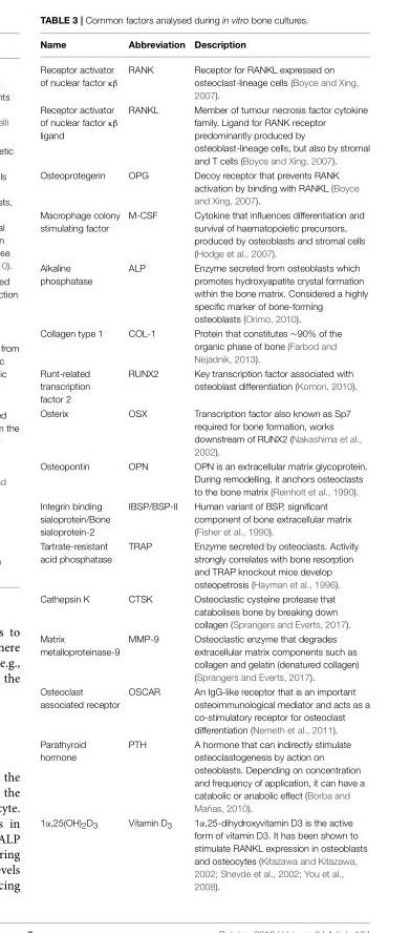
<table><thead><tr><td>Name</td><td>Abbreviation</td><td>Description</td></tr></thead><tbody><tr><td>Receptor activator of nuclear factor κβ</td><td>RANK</td><td>Receptor for RANKL expressed on osteoclast-lineage cells (Boyce and Xing, 2007).</td></tr><tr><td>Receptor activator of nuclear factor κβ ligand</td><td>RANKL</td><td>Member of tumour necrosis factor cytokine family. Ligand for RANK receptor predominantly produced by osteoblast-lineage cells, but also by stromal and T cells (Boyce and Xing, 2007).</td></tr><tr><td>Osteoprotegerin</td><td>OPG</td><td>Decoy receptor that prevents RANK activation by binding with RANKL (Boyce and Xing, 2007).</td></tr><tr><td>Macrophage colony stimulating factor</td><td>M-CSF</td><td>Cytokine that influences differentiation and survival of haematopoietic precursors, produced by osteoblasts and stromal cells (Hodge et al., 2007).</td></tr><tr><td>Alkaline phosphatase</td><td>ALP</td><td>Enzyme secreted from osteoblasts which promotes hydroxyapatite crystal formation within the bone matrix. Considered a highly specific marker of bone-forming osteoblasts (Orimo, 2010).</td></tr><tr><td>Collagen type 1</td><td>COL-1</td><td>Protein that constitutes ∼90% of the organic phase of bone (Farbod and Nejadnik, 2013).</td></tr><tr><td>Runt-related transcription factor 2</td><td>RUNX2</td><td>Key transcription factor associated with osteoblast differentiation (Komori, 2010).</td></tr><tr><td>Osterix</td><td>OSX</td><td>Transcription factor also known as Sp7 required for bone formation, works downstream of RUNX2 (Nakashima et al., 2002).</td></tr><tr><td>Osteopontin</td><td>OPN</td><td>OPN is an extracellular matrix glycoprotein. During remodelling, it anchors osteoclasts to the bone matrix (Reinholt et al., 1990).</td></tr><tr><td>Integrin binding sialoprotein/Bone sialoprotein-2</td><td>IBSP/BSP-II</td><td>Human variant of BSP, significant component of bone extracellular matrix (Fisher et al., 1990).</td></tr><tr><td>Tartrate-resistant acid phosphatase</td><td>TRAP</td><td>Enzyme secreted by osteoclasts. Activity strongly correlates with bone resorption and TRAP knockout mice develop osteopetrosis (Hayman et al., 1996).</td></tr><tr><td>Cathepsin K</td><td>CTSK</td><td>Osteoclastic cysteine protease that catabolises bone by breaking down collagen (Sprangers and Everts, 2017).</td></tr><tr><td>Matrix metalloproteinase-9</td><td>MMP-9</td><td>Osteoclastic enzyme that degrades extracellular matrix components such as collagen and gelatin (denatured collagen) (Sprangers and Everts, 2017).</td></tr><tr><td>Osteoclast associated receptor</td><td>OSCAR</td><td>An IgG-like receptor that is an important osteoimmunological mediator and acts as a co-stimulatory receptor for osteoclast differentiation (Nemeth et al., 2011).</td></tr><tr><td>Parathyroid hormone</td><td>PTH</td><td>A hormone that can indirectly stimulate osteoclastogenesis by action on osteoblasts. Depending on concentration and frequency of application, it can have a catabolic or anabolic effect (Borba and Mañas, 2010).</td></tr><tr><td>1α,25(OH)<sub>2</sub>D<sub>3</sub></td><td>Vitamin D<sub>3</sub></td><td>1α,25-dihydroxyvitamin D3 is the active form of vitamin D3. It has been shown to stimulate RANKL expression in osteoblasts and osteocytes (Kitazawa and Kitazawa, 2002; Shevde et al., 2002; You et al., 2008).</td></tr></tbody></table>